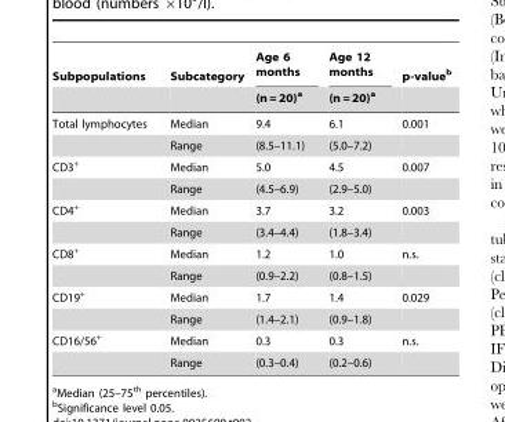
<table><thead><tr><td rowspan="2">Subpopulations</td><td rowspan="2">Subcategory</td><td rowspan="2">Age 6 months (n = 20)<sup>a</sup></td><td rowspan="2">Age 12 months (n = 20)<sup>a</sup></td><td rowspan="2">p-value<sup>b</sup></td></tr><tr></tr></thead><tbody><tr><td rowspan="2">Total lymphocytes</td><td>Median</td><td>9.4</td><td>6.1</td><td>0.001</td></tr><tr><td>Range</td><td>(8.5–11.1)</td><td>(5.0–7.2)</td><td></td></tr><tr><td rowspan="2">CD3<sup>+</sup></td><td>Median</td><td>5.0</td><td>4.5</td><td>0.007</td></tr><tr><td>Range</td><td>(4.5–6.9)</td><td>(2.9–5.0)</td><td></td></tr><tr><td rowspan="2">CD4<sup>+</sup></td><td>Median</td><td>3.7</td><td>3.2</td><td>0.003</td></tr><tr><td>Range</td><td>(3.4–4.4)</td><td>(1.8–3.4)</td><td></td></tr><tr><td rowspan="2">CD8<sup>+</sup></td><td>Median</td><td>1.2</td><td>1.0</td><td>n.s.</td></tr><tr><td>Range</td><td>(0.9–2.2)</td><td>(0.8–1.5)</td><td></td></tr><tr><td rowspan="2">CD19<sup>+</sup></td><td>Median</td><td>1.7</td><td>1.4</td><td>0.029</td></tr><tr><td>Range</td><td>(1.4–2.1)</td><td>(0.9–1.8)</td><td></td></tr><tr><td rowspan="2">CD16/56<sup>+</sup></td><td>Median</td><td>0.3</td><td>0.3</td><td>n.s.</td></tr><tr><td>Range</td><td>(0.3–0.4)</td><td>(0.2–0.6)</td><td></td></tr></tbody></table>